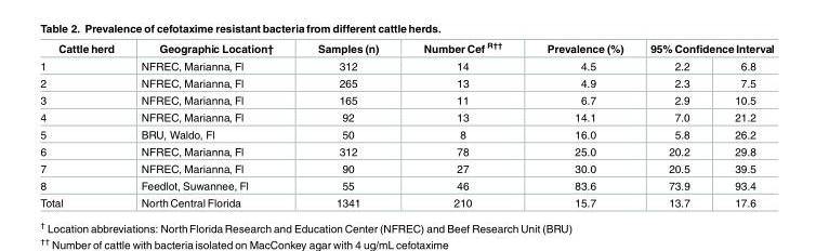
<table><thead><tr><td rowspan="2">Cattle herd 1</td><td rowspan="2">Geographic Location† NFREC, Marianna, Fl</td><td rowspan="2">Samples (n) 312</td><td rowspan="2">Number Cef <sup>R††</sup> 14</td><td rowspan="2">Prevalence (%) 4.5</td><td colspan="2">95% Confidence Interval</td></tr><tr><td>2.2</td><td>6.8</td></tr></thead><tbody><tr><td>2</td><td>NFREC, Marianna, Fl</td><td>265</td><td>13</td><td>4.9</td><td>2.3</td><td>7.5</td></tr><tr><td>3</td><td>NFREC, Marianna, Fl</td><td>165</td><td>11</td><td>6.7</td><td>2.9</td><td>10.5</td></tr><tr><td>4</td><td>NFREC, Marianna, Fl</td><td>92</td><td>13</td><td>14.1</td><td>7.0</td><td>21.2</td></tr><tr><td>5</td><td>BRU, Waldo, Fl</td><td>50</td><td>8</td><td>16.0</td><td>5.8</td><td>26.2</td></tr><tr><td>6</td><td>NFREC, Marianna, Fl</td><td>312</td><td>78</td><td>25.0</td><td>20.2</td><td>29.8</td></tr><tr><td>7</td><td>NFREC, Marianna, Fl</td><td>90</td><td>27</td><td>30.0</td><td>20.5</td><td>39.5</td></tr><tr><td>8</td><td>Feedlot, Suwannee, Fl</td><td>55</td><td>46</td><td>83.6</td><td>73.9</td><td>93.4</td></tr><tr><td>Total</td><td>North Central Florida</td><td>1341</td><td>210</td><td>15.7</td><td>13.7</td><td>17.6</td></tr></tbody></table>